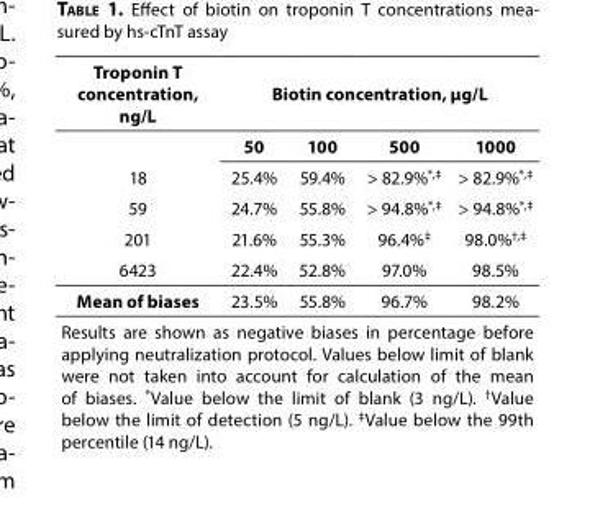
<table><thead><tr><td rowspan="2">Troponin T concentration, ng/L</td><td colspan="4">Biotin concentration, µg/L</td></tr><tr><td>50</td><td>100</td><td>500</td><td>1000</td></tr></thead><tbody><tr><td>18</td><td>25.4%</td><td>59.4%</td><td>&gt; 82.9%<sup>*,‡</sup></td><td>&gt; 82.9%<sup>*,‡</sup></td></tr><tr><td>59</td><td>24.7%</td><td>55.8%</td><td>&gt; 94.8%<sup>*,‡</sup></td><td>&gt; 94.8%<sup>*,‡</sup></td></tr><tr><td>201</td><td>21.6%</td><td>55.3%</td><td>96.4%<sup>‡</sup></td><td>98.0%<sup>†,‡</sup></td></tr><tr><td>6423</td><td>22.4%</td><td>52.8%</td><td>97.0%</td><td>98.5%</td></tr><tr><td>Mean of biases</td><td>23.5%</td><td>55.8%</td><td>96.7%</td><td>98.2%</td></tr><tr><td colspan="5">Results are shown as negative biases in percentage before applying neutralization protocol. Values below limit of blank were not taken into account for calculation of the mean of biases. *Value below the limit of blank (3 ng/L). <sup>†</sup>Value below the limit of detection (5 ng/L). <sup>‡</sup>Value below the 99th percentile (14 ng/L).</td></tr></tbody></table>